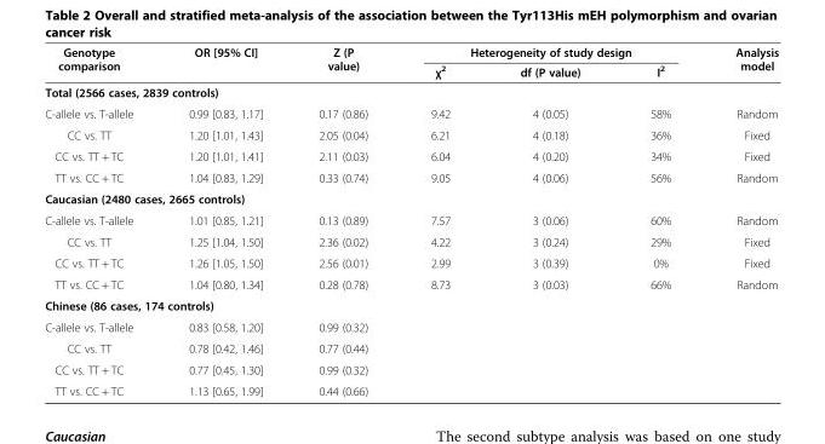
<table><thead><tr><td rowspan="2">Genotype comparison</td><td rowspan="2">OR [95% CI]</td><td rowspan="2">Z (P value)</td><td colspan="3">Heterogeneity of study design</td><td rowspan="2">Analysis model</td></tr><tr><td>χ<sup>2</sup></td><td>df (P value)</td><td>I<sup>2</sup></td></tr></thead><tbody><tr><td colspan="7">Total (2566 cases, 2839 controls)</td></tr><tr><td>C-allele vs. T-allele</td><td>0.99 [0.83, 1.17]</td><td>0.17 (0.86)</td><td>9.42</td><td>4 (0.05)</td><td>58%</td><td>Random</td></tr><tr><td>CC vs. TT</td><td>1.20 [1.01, 1.43]</td><td>2.05 (0.04)</td><td>6.21</td><td>4 (0.18)</td><td>36%</td><td>Fixed</td></tr><tr><td>CC vs. TT + TC</td><td>1.20 [1.01, 1.41]</td><td>2.11 (0.03)</td><td>6.04</td><td>4 (0.20)</td><td>34%</td><td>Fixed</td></tr><tr><td>TT vs. CC + TC</td><td>1.04 [0.83, 1.29]</td><td>0.33 (0.74)</td><td>9.05</td><td>4 (0.06)</td><td>56%</td><td>Random</td></tr><tr><td colspan="7">Caucasian (2480 cases, 2665 controls)</td></tr><tr><td>C-allele vs. T-allele</td><td>1.01 [0.85, 1.21]</td><td>0.13 (0.89)</td><td>7.57</td><td>3 (0.06)</td><td>60%</td><td>Random</td></tr><tr><td>CC vs. TT</td><td>1.25 [1.04, 1.50]</td><td>2.36 (0.02)</td><td>4.22</td><td>3 (0.24)</td><td>29%</td><td>Fixed</td></tr><tr><td>CC vs. TT + TC</td><td>1.26 [1.05, 1.50]</td><td>2.56 (0.01)</td><td>2.99</td><td>3 (0.39)</td><td>0%</td><td>Fixed</td></tr><tr><td>TT vs. CC + TC</td><td>1.04 [0.80, 1.34]</td><td>0.28 (0.78)</td><td>8.73</td><td>3 (0.03)</td><td>66%</td><td>Random</td></tr><tr><td colspan="7">Chinese (86 cases, 174 controls)</td></tr><tr><td>C-allele vs. T-allele</td><td>0.83 [0.58, 1.20]</td><td>0.99 (0.32)</td><td colspan="4"></td></tr><tr><td>CC vs. TT</td><td>0.78 [0.42, 1.46]</td><td>0.77 (0.44)</td><td colspan="4"></td></tr><tr><td>CC vs. TT + TC</td><td>0.77 [0.45, 1.30]</td><td>0.99 (0.32)</td><td colspan="4"></td></tr><tr><td>TT vs. CC + TC</td><td>1.13 [0.65, 1.99]</td><td>0.44 (0.66)</td><td colspan="4"></td></tr></tbody></table>